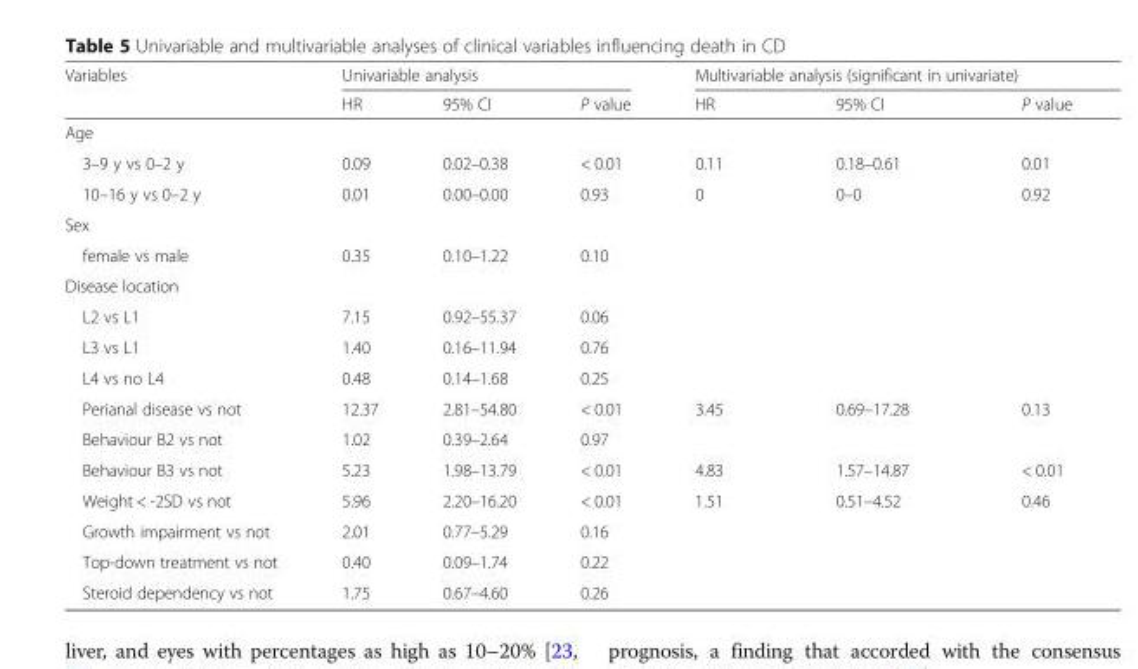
<table><thead><tr><td rowspan="2">Variables</td><td colspan="3">Univariable analysis</td><td colspan="3">Multivariable analysis (significant in univariate)</td></tr><tr><td>HR</td><td>95% CI</td><td>P value</td><td>HR</td><td>95% CI</td><td>P value</td></tr></thead><tbody><tr><td colspan="7">Age</td></tr><tr><td>3–9 y vs 0–2 y</td><td>0.09</td><td>0.02–0.38</td><td>&lt; 0.01</td><td>0.11</td><td>0.18–0.61</td><td>0.01</td></tr><tr><td>10–16 y vs 0–2 y</td><td>0.01</td><td>0.00–0.00</td><td>0.93</td><td>0</td><td>0–0</td><td>0.92</td></tr><tr><td colspan="7">Sex</td></tr><tr><td>female vs male</td><td>0.35</td><td>0.10–1.22</td><td>0.10</td><td></td><td></td><td></td></tr><tr><td colspan="7">Disease location</td></tr><tr><td>L2 vs L1</td><td>7.15</td><td>0.92–55.37</td><td>0.06</td><td></td><td></td><td></td></tr><tr><td>L3 vs L1</td><td>1.40</td><td>0.16–11.94</td><td>0.76</td><td></td><td></td><td></td></tr><tr><td>L4 vs no L4</td><td>0.48</td><td>0.14–1.68</td><td>0.25</td><td></td><td></td><td></td></tr><tr><td>Perianal disease vs not</td><td>12.37</td><td>2.81–54.80</td><td>&lt; 0.01</td><td>3.45</td><td>0.69–17.28</td><td>0.13</td></tr><tr><td>Behaviour B2 vs not</td><td>1.02</td><td>0.39–2.64</td><td>0.97</td><td></td><td></td><td></td></tr><tr><td>Behaviour B3 vs not</td><td>5.23</td><td>1.98–13.79</td><td>&lt; 0.01</td><td>4.83</td><td>1.57–14.87</td><td>&lt; 0.01</td></tr><tr><td>Weight &lt; -2SD vs not</td><td>5.96</td><td>2.20–16.20</td><td>&lt; 0.01</td><td>1.51</td><td>0.51–4.52</td><td>0.46</td></tr><tr><td>Growth impairment vs not</td><td>2.01</td><td>0.77–5.29</td><td>0.16</td><td></td><td></td><td></td></tr><tr><td>Top-down treatment vs not</td><td>0.40</td><td>0.09–1.74</td><td>0.22</td><td></td><td></td><td></td></tr><tr><td>Steroid dependency vs not</td><td>1.75</td><td>0.67–4.60</td><td>0.26</td><td></td><td></td><td></td></tr></tbody></table>